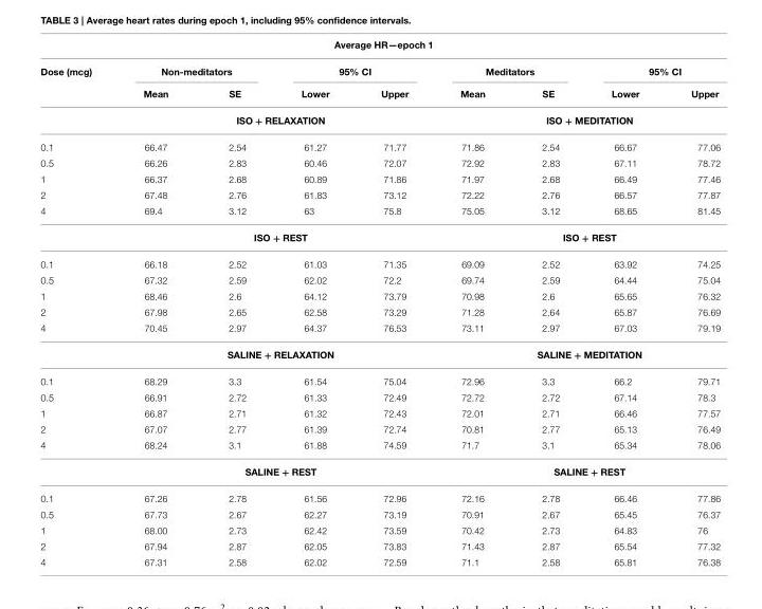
<table><thead><tr><td colspan="9">Average HR—epoch 1</td></tr><tr><td rowspan="2">Dose (mcg)</td><td colspan="2">Non-meditators</td><td colspan="2">95% CI</td><td colspan="2">Meditators</td><td colspan="2">95% CI</td></tr><tr><td>Mean</td><td>SE</td><td>Lower</td><td>Upper</td><td>Mean</td><td>SE</td><td>Lower</td><td>Upper</td></tr></thead><tbody><tr><td colspan="5">ISO + RELAXATION</td><td colspan="4">ISO + MEDITATION</td></tr><tr><td>0.1</td><td>66.47</td><td>2.54</td><td>61.27</td><td>71.77</td><td>71.86</td><td>2.54</td><td>66.67</td><td>77.06</td></tr><tr><td>0.5</td><td>66.26</td><td>2.83</td><td>60.46</td><td>72.07</td><td>72.92</td><td>2.83</td><td>67.11</td><td>78.72</td></tr><tr><td>1</td><td>66.37</td><td>2.68</td><td>60.89</td><td>71.86</td><td>71.97</td><td>2.68</td><td>66.49</td><td>77.46</td></tr><tr><td>2</td><td>67.48</td><td>2.76</td><td>61.83</td><td>73.12</td><td>72.22</td><td>2.76</td><td>66.57</td><td>77.87</td></tr><tr><td>4</td><td>69.4</td><td>3.12</td><td>63</td><td>75.8</td><td>75.05</td><td>3.12</td><td>68.65</td><td>81.45</td></tr><tr><td colspan="5">ISO + REST</td><td colspan="4">ISO + REST</td></tr><tr><td>0.1</td><td>66.18</td><td>2.52</td><td>61.03</td><td>71.35</td><td>69.09</td><td>2.52</td><td>63.92</td><td>74.25</td></tr><tr><td>0.5</td><td>67.32</td><td>2.59</td><td>62.02</td><td>72.2</td><td>69.74</td><td>2.59</td><td>64.44</td><td>75.04</td></tr><tr><td>1</td><td>68.46</td><td>2.6</td><td>64.12</td><td>73.79</td><td>70.98</td><td>2.6</td><td>65.65</td><td>76.32</td></tr><tr><td>2</td><td>67.98</td><td>2.65</td><td>62.58</td><td>73.29</td><td>71.28</td><td>2.64</td><td>65.87</td><td>76.69</td></tr><tr><td>4</td><td>70.45</td><td>2.97</td><td>64.37</td><td>76.53</td><td>73.11</td><td>2.97</td><td>67.03</td><td>79.19</td></tr><tr><td colspan="5">SALINE + RELAXATION</td><td colspan="4">SALINE + MEDITATION</td></tr><tr><td>0.1</td><td>68.29</td><td>3.3</td><td>61.54</td><td>75.04</td><td>72.96</td><td>3.3</td><td>66.2</td><td>79.71</td></tr><tr><td>0.5</td><td>66.91</td><td>2.72</td><td>61.33</td><td>72.49</td><td>72.72</td><td>2.72</td><td>67.14</td><td>78.3</td></tr><tr><td>1</td><td>66.87</td><td>2.71</td><td>61.32</td><td>72.43</td><td>72.01</td><td>2.71</td><td>66.46</td><td>77.57</td></tr><tr><td>2</td><td>67.07</td><td>2.77</td><td>61.39</td><td>72.74</td><td>70.81</td><td>2.77</td><td>65.13</td><td>76.49</td></tr><tr><td>4</td><td>68.24</td><td>3.1</td><td>61.88</td><td>74.59</td><td>71.7</td><td>3.1</td><td>65.34</td><td>78.06</td></tr><tr><td colspan="5">SALINE + REST</td><td colspan="4">SALINE + REST</td></tr><tr><td>0.1</td><td>67.26</td><td>2.78</td><td>61.56</td><td>72.96</td><td>72.16</td><td>2.78</td><td>66.46</td><td>77.86</td></tr><tr><td>0.5</td><td>67.73</td><td>2.67</td><td>62.27</td><td>73.19</td><td>70.91</td><td>2.67</td><td>65.45</td><td>76.37</td></tr><tr><td>1</td><td>68.00</td><td>2.73</td><td>62.42</td><td>73.59</td><td>70.42</td><td>2.73</td><td>64.83</td><td>76</td></tr><tr><td>2</td><td>67.94</td><td>2.87</td><td>62.05</td><td>73.83</td><td>71.43</td><td>2.87</td><td>65.54</td><td>77.32</td></tr><tr><td>4</td><td>67.31</td><td>2.58</td><td>62.02</td><td>72.59</td><td>71.1</td><td>2.58</td><td>65.81</td><td>76.38</td></tr></tbody></table>